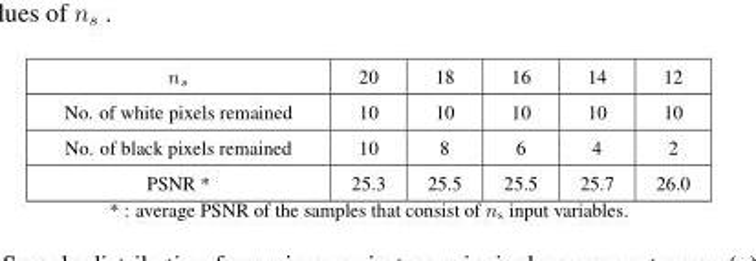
<table><tbody><tr><td>n<sub>s</sub></td><td>20</td><td>18</td><td>16</td><td>14</td><td>12</td></tr><tr><td>No. of white pixels remained</td><td>10</td><td>10</td><td>10</td><td>10</td><td>10</td></tr><tr><td>No. of black pixels remained</td><td>10</td><td>8</td><td>6</td><td>4</td><td>2</td></tr><tr><td>PSNR *</td><td>25.3</td><td>25.5</td><td>25.5</td><td>25.7</td><td>26.0</td></tr></tbody></table>